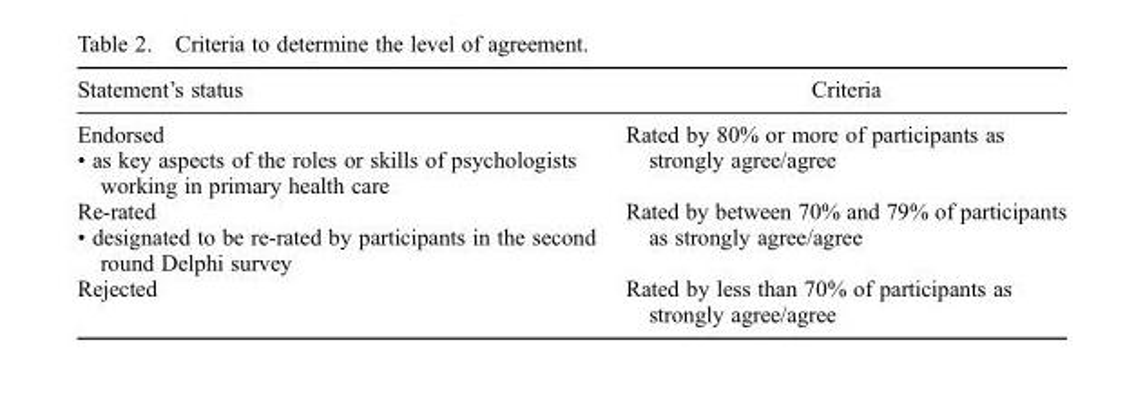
<table><thead><tr><td>Statement’s status</td><td>Criteria</td></tr></thead><tbody><tr><td>Endorsed</td><td rowspan="2">Rated by 80% or more of participants as strongly agree/agree</td></tr><tr><td>• as key aspects of the roles or skills of psychologists working in primary health care</td></tr><tr><td>Re-rated</td><td rowspan="2">Rated by between 70% and 79% of participants as strongly agree/agree</td></tr><tr><td>• designated to be re-rated by participants in the second round Delphi survey</td></tr><tr><td>Rejected</td><td>Rated by less than 70% of participants as strongly agree/agree</td></tr></tbody></table>